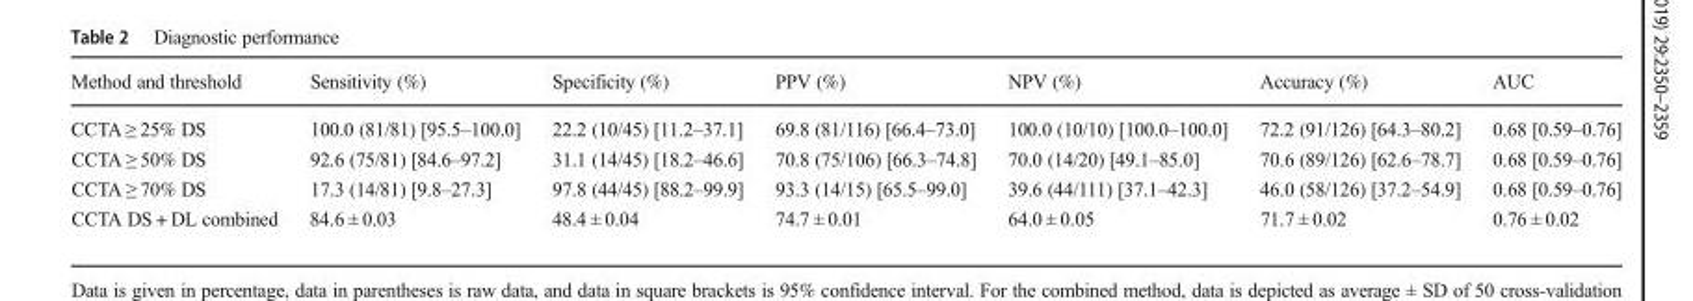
<table><thead><tr><td>Method and threshold</td><td>Sensitivity (%)</td><td>Specificity (%)</td><td>PPV (%)</td><td>NPV (%)</td><td>Accuracy (%)</td><td>AUC</td></tr></thead><tbody><tr><td>CCTA ≥ 25% DS</td><td>100.0 (81/81) [95.5–100.0]</td><td>22.2 (10/45) [11.2–37.1]</td><td>69.8 (81/116) [66.4–73.0]</td><td>100.0 (10/10) [100.0–100.0]</td><td>72.2 (91/126) [64.3–80.2]</td><td>0.68 [0.59–0.76]</td></tr><tr><td>CCTA ≥ 50% DS</td><td>92.6 (75/81) [84.6–97.2]</td><td>31.1 (14/45) [18.2–46.6]</td><td>70.8 (75/106) [66.3–74.8]</td><td>70.0 (14/20) [49.1–85.0]</td><td>70.6 (89/126) [62.6–78.7]</td><td>0.68 [0.59–0.76]</td></tr><tr><td>CCTA ≥ 70% DS</td><td>17.3 (14/81) [9.8–27.3]</td><td>97.8 (44/45) [88.2–99.9]</td><td>93.3 (14/15) [65.5–99.0]</td><td>39.6 (44/111) [37.1–42.3]</td><td>46.0 (58/126) [37.2–54.9]</td><td>0.68 [0.59–0.76]</td></tr><tr><td>CCTA DS + DL combined</td><td>84.6 ± 0.03</td><td>48.4 ± 0.04</td><td>74.7 ± 0.01</td><td>64.0 ± 0.05</td><td>71.7 ± 0.02</td><td>0.76 ± 0.02</td></tr></tbody></table>